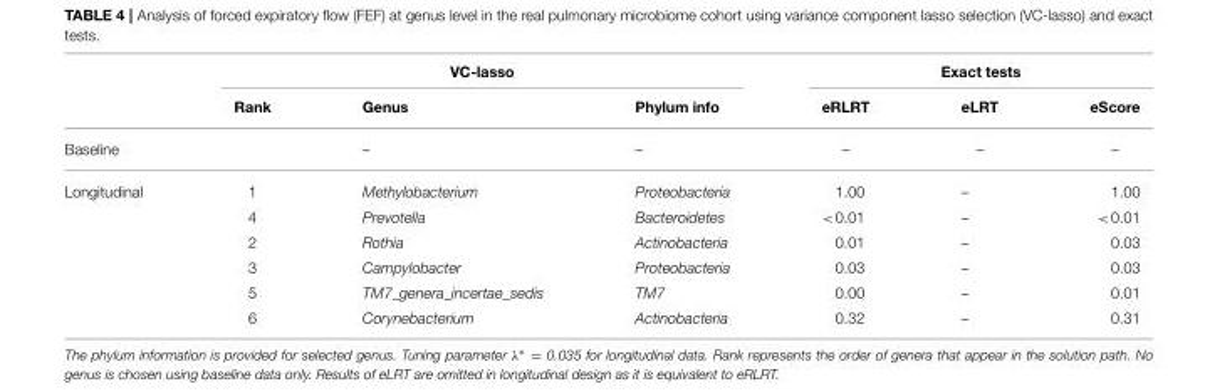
<table><thead><tr><td rowspan="2"></td><td colspan="3">VC-lasso</td><td colspan="3">Exact tests</td></tr><tr><td>Rank</td><td>Genus</td><td>Phylum info</td><td>eRLRT</td><td>eLRT</td><td>eScore</td></tr></thead><tbody><tr><td>Baseline</td><td></td><td>–</td><td>–</td><td>–</td><td>–</td><td>–</td></tr><tr><td rowspan="6">Longitudinal</td><td>1</td><td>Methylobacterium</td><td>Proteobacteria</td><td>1.00</td><td>–</td><td>1.00</td></tr><tr><td>4</td><td>Prevotella</td><td>Bacteroidetes</td><td>&lt;0.01</td><td>–</td><td>&lt;0.01</td></tr><tr><td>2</td><td>Rothia</td><td>Actinobacteria</td><td>0.01</td><td>–</td><td>0.03</td></tr><tr><td>3</td><td>Campylobacter</td><td>Proteobacteria</td><td>0.03</td><td>–</td><td>0.03</td></tr><tr><td>5</td><td>TM7_genera_incertae_sedis</td><td>TM7</td><td>0.00</td><td>–</td><td>0.01</td></tr><tr><td>6</td><td>Corynebacterium</td><td>Actinobacteria</td><td>0.32</td><td>–</td><td>0.31</td></tr></tbody></table>